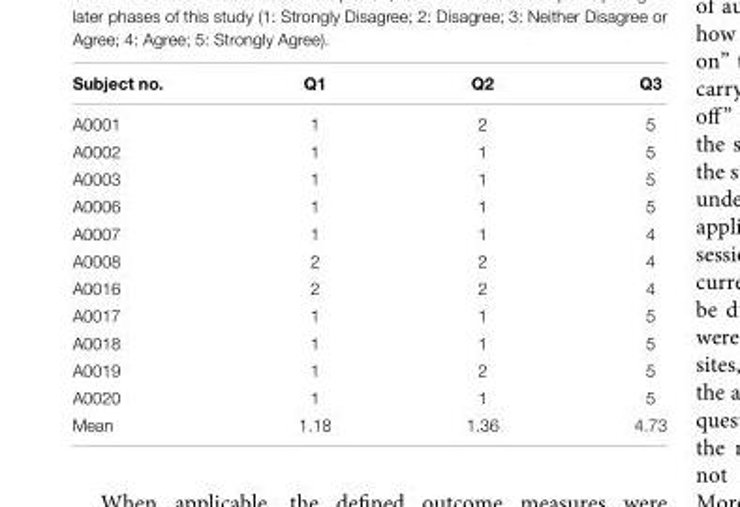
<table><thead><tr><td>Subject no.</td><td>Q1</td><td>Q2</td><td>Q3</td></tr></thead><tbody><tr><td>A0001</td><td>1</td><td>2</td><td>5</td></tr><tr><td>A0002</td><td>1</td><td>1</td><td>5</td></tr><tr><td>A0003</td><td>1</td><td>1</td><td>5</td></tr><tr><td>A0006</td><td>1</td><td>1</td><td>5</td></tr><tr><td>A0007</td><td>1</td><td>1</td><td>4</td></tr><tr><td>A0008</td><td>2</td><td>2</td><td>4</td></tr><tr><td>A0016</td><td>2</td><td>2</td><td>4</td></tr><tr><td>A0017</td><td>1</td><td>1</td><td>5</td></tr><tr><td>A0018</td><td>1</td><td>1</td><td>5</td></tr><tr><td>A0019</td><td>1</td><td>2</td><td>5</td></tr><tr><td>A0020</td><td>1</td><td>1</td><td>5</td></tr><tr><td>Mean</td><td>1.18</td><td>1.36</td><td>4.73</td></tr></tbody></table>